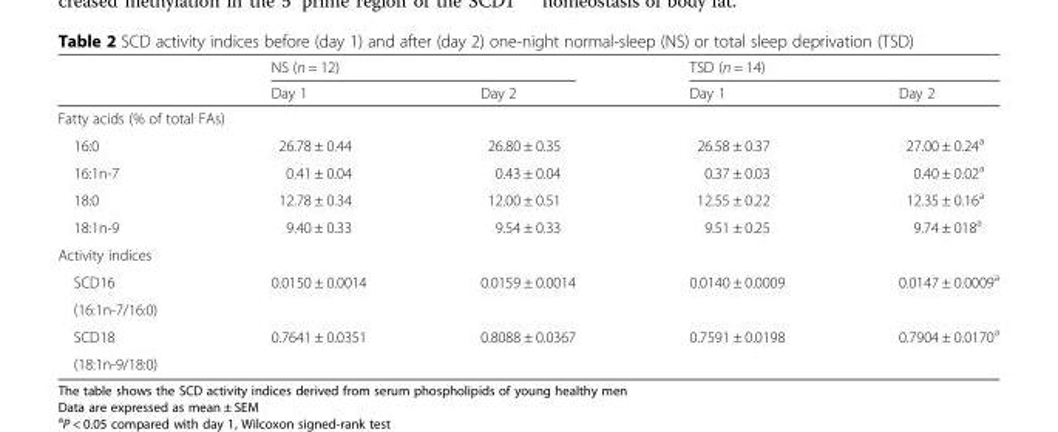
<table><thead><tr><td rowspan="2"></td><td colspan="2">NS (n = 12)</td><td colspan="2">TSD (n = 14)</td></tr><tr><td>Day 1</td><td>Day 2</td><td>Day 1</td><td>Day 2</td></tr></thead><tbody><tr><td colspan="5">Fatty acids (% of total FAs)</td></tr><tr><td>16:0</td><td>26.78 ± 0.44</td><td>26.80 ± 0.35</td><td>26.58 ± 0.37</td><td>27.00 ± 0.24<sup>a</sup></td></tr><tr><td>16:1n-7</td><td>0.41 ± 0.04</td><td>0.43 ± 0.04</td><td>0.37 ± 0.03</td><td>0.40 ± 0.02<sup>a</sup></td></tr><tr><td>18:0</td><td>12.78 ± 0.34</td><td>12.00 ± 0.51</td><td>12.55 ± 0.22</td><td>12.35 ± 0.16<sup>a</sup></td></tr><tr><td>18:1n-9</td><td>9.40 ± 0.33</td><td>9.54 ± 0.33</td><td>9.51 ± 0.25</td><td>9.74 ± 018<sup>a</sup></td></tr><tr><td colspan="5">Activity indices</td></tr><tr><td>SCD16</td><td rowspan="2">0.0150 ± 0.0014</td><td rowspan="2">0.0159 ± 0.0014</td><td rowspan="2">0.0140 ± 0.0009</td><td rowspan="2">0.0147 ± 0.0009<sup>a</sup></td></tr><tr><td>(16:1n-7/16:0)</td></tr><tr><td>SCD18</td><td rowspan="2">0.7641 ± 0.0351</td><td rowspan="2">0.8088 ± 0.0367</td><td rowspan="2">0.7591 ± 0.0198</td><td rowspan="2">0.7904 ± 0.0170<sup>a</sup></td></tr><tr><td>(18:1n-9/18:0)</td></tr></tbody></table>